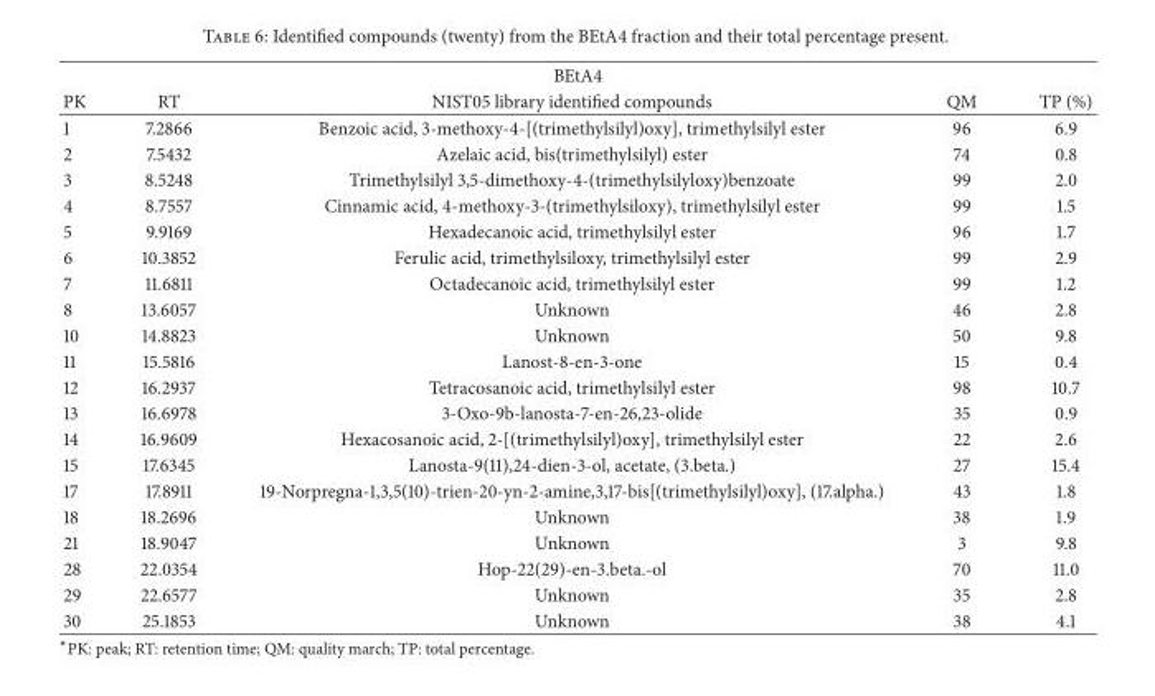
<table><thead><tr><td colspan="5">BEtA4</td></tr><tr><td>PK</td><td>RT</td><td>NIST05 library identified compounds</td><td>QM</td><td>TP (%)</td></tr></thead><tbody><tr><td>1</td><td>7.2866</td><td>Benzoic acid, 3-methoxy-4-[(trimethylsilyl)oxy], trimethylsilyl ester</td><td>96</td><td>6.9</td></tr><tr><td>2</td><td>7.5432</td><td>Azelaic acid, bis(trimethylsilyl) ester</td><td>74</td><td>0.8</td></tr><tr><td>3</td><td>8.5248</td><td>Trimethylsilyl 3,5-dimethoxy-4-(trimethylsilyloxy)benzoate</td><td>99</td><td>2.0</td></tr><tr><td>4</td><td>8.7557</td><td>Cinnamic acid, 4-methoxy-3-(trimethylsiloxy), trimethylsilyl ester</td><td>99</td><td>1.5</td></tr><tr><td>5</td><td>9.9169</td><td>Hexadecanoic acid, trimethylsilyl ester</td><td>96</td><td>1.7</td></tr><tr><td>6</td><td>10.3852</td><td>Ferulic acid, trimethylsiloxy, trimethylsilyl ester</td><td>99</td><td>2.9</td></tr><tr><td>7</td><td>11.6811</td><td>Octadecanoic acid, trimethylsilyl ester</td><td>99</td><td>1.2</td></tr><tr><td>8</td><td>13.6057</td><td>Unknown</td><td>46</td><td>2.8</td></tr><tr><td>10</td><td>14.8823</td><td>Unknown</td><td>50</td><td>9.8</td></tr><tr><td>11</td><td>15.5816</td><td>Lanost-8-en-3-one</td><td>15</td><td>0.4</td></tr><tr><td>12</td><td>16.2937</td><td>Tetracosanoic acid, trimethylsilyl ester</td><td>98</td><td>10.7</td></tr><tr><td>13</td><td>16.6978</td><td>3-Oxo-9b-lanosta-7-en-26,23-olide</td><td>35</td><td>0.9</td></tr><tr><td>14</td><td>16.9609</td><td>Hexacosanoic acid, 2-[(trimethylsilyl)oxy], trimethylsilyl ester</td><td>22</td><td>2.6</td></tr><tr><td>15</td><td>17.6345</td><td>Lanosta-9(11),24-dien-3-ol, acetate, (3.beta.)</td><td>27</td><td>15.4</td></tr><tr><td>17</td><td>17.8911</td><td>19-Norpregna-1,3,5(10)-trien-20-yn-2-amine,3,17-bis[(trimethylsilyl)oxy], (17.alpha.)</td><td>43</td><td>1.8</td></tr><tr><td>18</td><td>18.2696</td><td>Unknown</td><td>38</td><td>1.9</td></tr><tr><td>21</td><td>18.9047</td><td>Unknown</td><td>3</td><td>9.8</td></tr><tr><td>28</td><td>22.0354</td><td>Hop-22(29)-en-3.beta.-ol</td><td>70</td><td>11.0</td></tr><tr><td>29</td><td>22.6577</td><td>Unknown</td><td>35</td><td>2.8</td></tr><tr><td>30</td><td>25.1853</td><td>Unknown</td><td>38</td><td>4.1</td></tr></tbody></table>